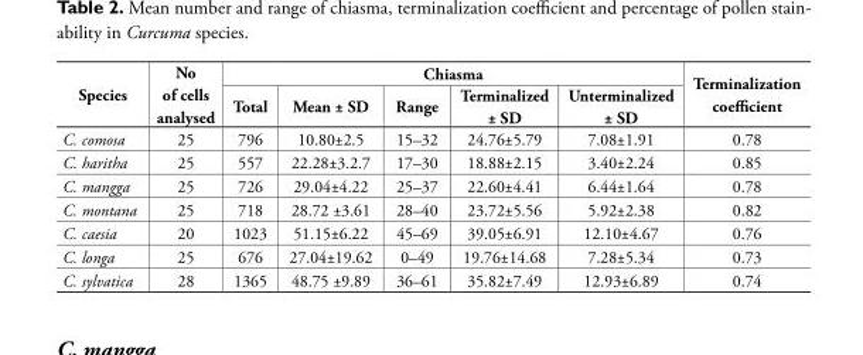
<table><tbody><tr><td rowspan="2">Species</td><td rowspan="2">No of cells analysed</td><td colspan="5">Chiasma</td><td rowspan="2">Terminalization coefficient</td></tr><tr><td>Total</td><td>Mean ± SD</td><td>Range</td><td>Terminalized ± SD</td><td>Unterminalized ± SD</td></tr><tr><td>C. comosa</td><td>25</td><td>796</td><td>10.80±2.5</td><td>15–32</td><td>24.76±5.79</td><td>7.08±1.91</td><td>0.78</td></tr><tr><td>C. haritha</td><td>25</td><td>557</td><td>22.28±3.2.7</td><td>17–30</td><td>18.88±2.15</td><td>3.40±2.24</td><td>0.85</td></tr><tr><td>C. mangga</td><td>25</td><td>726</td><td>29.04±4.22</td><td>25–37</td><td>22.60±4.41</td><td>6.44±1.64</td><td>0.78</td></tr><tr><td>C. montana</td><td>25</td><td>718</td><td>28.72 ±3.61</td><td>28–40</td><td>23.72±5.56</td><td>5.92±2.38</td><td>0.82</td></tr><tr><td>C. caesia</td><td>20</td><td>1023</td><td>51.15±6.22</td><td>45–69</td><td>39.05±6.91</td><td>12.10±4.67</td><td>0.76</td></tr><tr><td>C. longa</td><td>25</td><td>676</td><td>27.04±19.62</td><td>0–49</td><td>19.76±14.68</td><td>7.28±5.34</td><td>0.73</td></tr><tr><td>C. sylvatica</td><td>28</td><td>1365</td><td>48.75 ±9.89</td><td>36–61</td><td>35.82±7.49</td><td>12.93±6.89</td><td>0.74</td></tr></tbody></table>